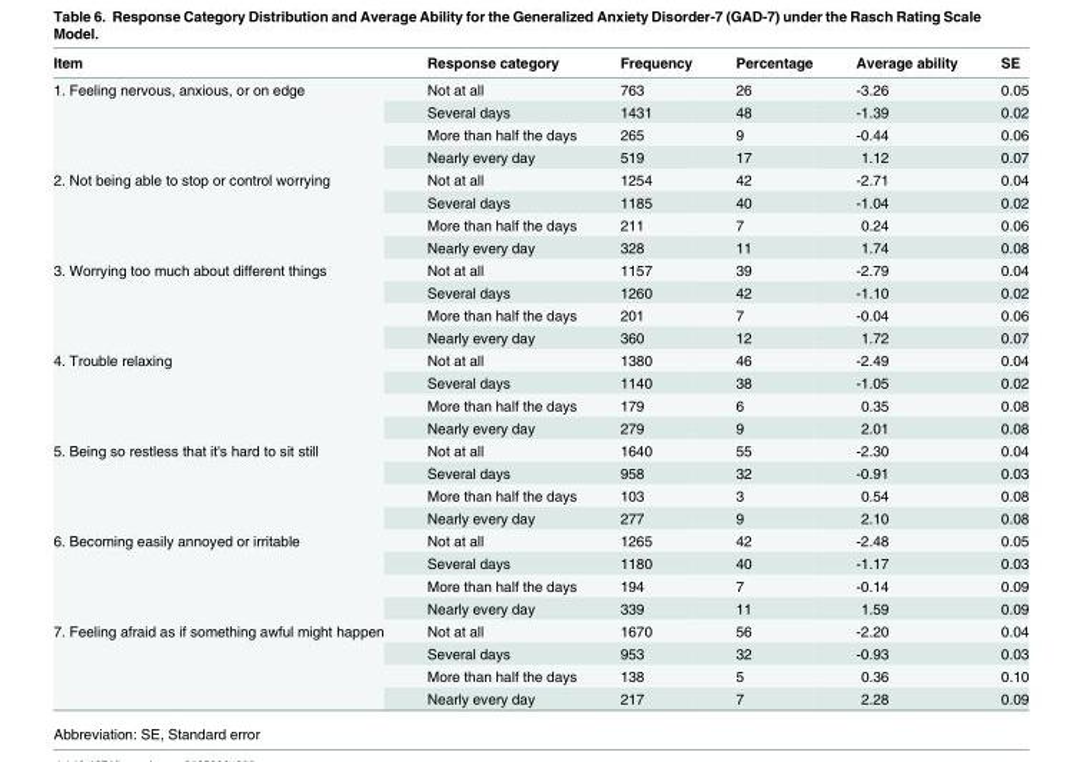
<table><thead><tr><td>Item</td><td>Response category</td><td>Frequency</td><td>Percentage</td><td>Average ability</td><td>SE</td></tr></thead><tbody><tr><td rowspan="4">1. Feeling nervous, anxious, or on edge</td><td>Not at all</td><td>763</td><td>26</td><td>-3.26</td><td>0.05</td></tr><tr><td>Several days</td><td>1431</td><td>48</td><td>-1.39</td><td>0.02</td></tr><tr><td>More than half the days</td><td>265</td><td>9</td><td>-0.44</td><td>0.06</td></tr><tr><td>Nearly every day</td><td>519</td><td>17</td><td>1.12</td><td>0.07</td></tr><tr><td rowspan="4">2. Not being able to stop or control worrying</td><td>Not at all</td><td>1254</td><td>42</td><td>-2.71</td><td>0.04</td></tr><tr><td>Several days</td><td>1185</td><td>40</td><td>-1.04</td><td>0.02</td></tr><tr><td>More than half the days</td><td>211</td><td>7</td><td>0.24</td><td>0.06</td></tr><tr><td>Nearly every day</td><td>328</td><td>11</td><td>1.74</td><td>0.08</td></tr><tr><td rowspan="4">3. Worrying too much about different things</td><td>Not at all</td><td>1157</td><td>39</td><td>-2.79</td><td>0.04</td></tr><tr><td>Several days</td><td>1260</td><td>42</td><td>-1.10</td><td>0.02</td></tr><tr><td>More than half the days</td><td>201</td><td>7</td><td>-0.04</td><td>0.06</td></tr><tr><td>Nearly every day</td><td>360</td><td>12</td><td>1.72</td><td>0.07</td></tr><tr><td rowspan="4">4. Trouble relaxing</td><td>Not at all</td><td>1380</td><td>46</td><td>-2.49</td><td>0.04</td></tr><tr><td>Several days</td><td>1140</td><td>38</td><td>-1.05</td><td>0.02</td></tr><tr><td>More than half the days</td><td>179</td><td>6</td><td>0.35</td><td>0.08</td></tr><tr><td>Nearly every day</td><td>279</td><td>9</td><td>2.01</td><td>0.08</td></tr><tr><td rowspan="4">5. Being so restless that it&#x27;s hard to sit still</td><td>Not at all</td><td>1640</td><td>55</td><td>-2.30</td><td>0.04</td></tr><tr><td>Several days</td><td>958</td><td>32</td><td>-0.91</td><td>0.03</td></tr><tr><td>More than half the days</td><td>103</td><td>3</td><td>0.54</td><td>0.08</td></tr><tr><td>Nearly every day</td><td>277</td><td>9</td><td>2.10</td><td>0.08</td></tr><tr><td rowspan="4">6. Becoming easily annoyed or irritable</td><td>Not at all</td><td>1265</td><td>42</td><td>-2.48</td><td>0.05</td></tr><tr><td>Several days</td><td>1180</td><td>40</td><td>-1.17</td><td>0.03</td></tr><tr><td>More than half the days</td><td>194</td><td>7</td><td>-0.14</td><td>0.09</td></tr><tr><td>Nearly every day</td><td>339</td><td>11</td><td>1.59</td><td>0.09</td></tr><tr><td rowspan="4">7. Feeling afraid as if something awful might happen</td><td>Not at all</td><td>1670</td><td>56</td><td>-2.20</td><td>0.04</td></tr><tr><td>Several days</td><td>953</td><td>32</td><td>-0.93</td><td>0.03</td></tr><tr><td>More than half the days</td><td>138</td><td>5</td><td>0.36</td><td>0.10</td></tr><tr><td>Nearly every day</td><td>217</td><td>7</td><td>2.28</td><td>0.09</td></tr></tbody></table>